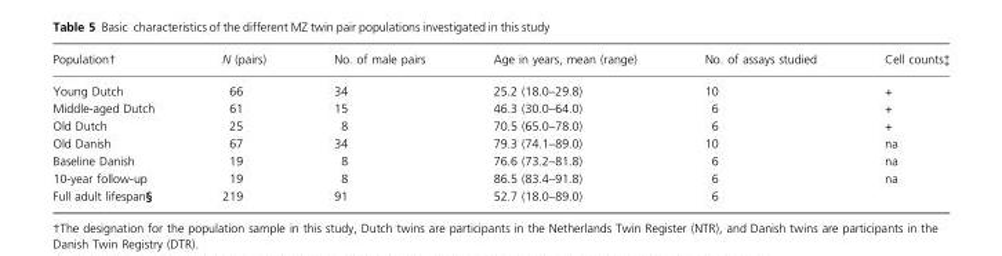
<table><thead><tr><td>Population†</td><td>N (pairs)</td><td>No. of male pairs</td><td>Age in years, mean (range)</td><td>No. of assays studied</td><td>Cell counts‡</td></tr></thead><tbody><tr><td>Young Dutch</td><td>66</td><td>34</td><td>25.2 (18.0–29.8)</td><td>10</td><td>+</td></tr><tr><td>Middle-aged Dutch</td><td>61</td><td>15</td><td>46.3 (30.0–64.0)</td><td>6</td><td>+</td></tr><tr><td>Old Dutch</td><td>25</td><td>8</td><td>70.5 (65.0–78.0)</td><td>6</td><td>+</td></tr><tr><td>Old Danish</td><td>67</td><td>34</td><td>79.3 (74.1–89.0)</td><td>10</td><td>na</td></tr><tr><td>Baseline Danish</td><td>19</td><td>8</td><td>76.6 (73.2–81.8)</td><td>6</td><td>na</td></tr><tr><td>10-year follow-up</td><td>19</td><td>8</td><td>86.5 (83.4–91.8)</td><td>6</td><td>na</td></tr><tr><td>Full adult lifespan§</td><td>219</td><td>91</td><td>52.7 (18.0–89.0)</td><td>6</td><td></td></tr></tbody></table>